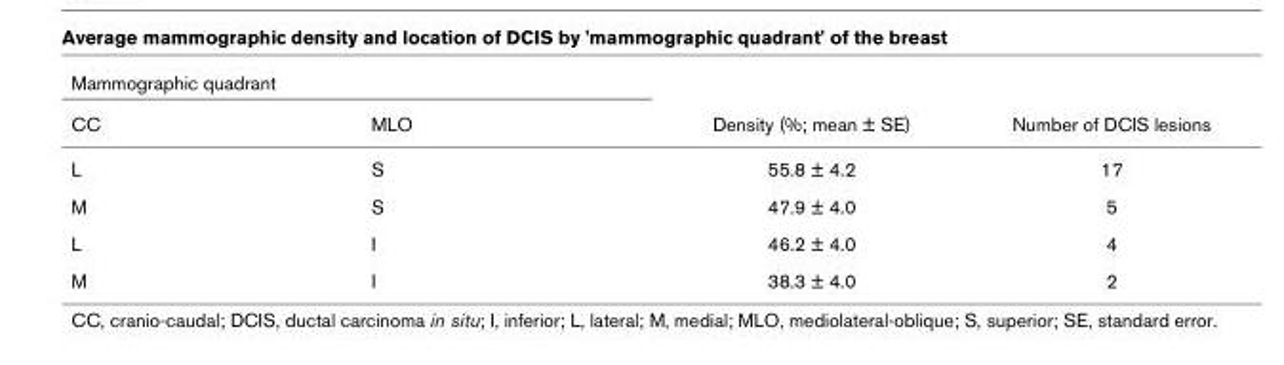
<table><thead><tr><td colspan="2">Mammographic quadrant</td><td rowspan="2">Density (%; mean ± SE)</td><td rowspan="2">Number of DCIS lesions</td></tr><tr><td>CC</td><td>MLO</td></tr></thead><tbody><tr><td>L</td><td>S</td><td>55.8 ± 4.2</td><td>17</td></tr><tr><td>M</td><td>S</td><td>47.9 ± 4.0</td><td>5</td></tr><tr><td>L</td><td>I</td><td>46.2 ± 4.0</td><td>4</td></tr><tr><td>M</td><td>I</td><td>38.3 ± 4.0</td><td>2</td></tr></tbody></table>